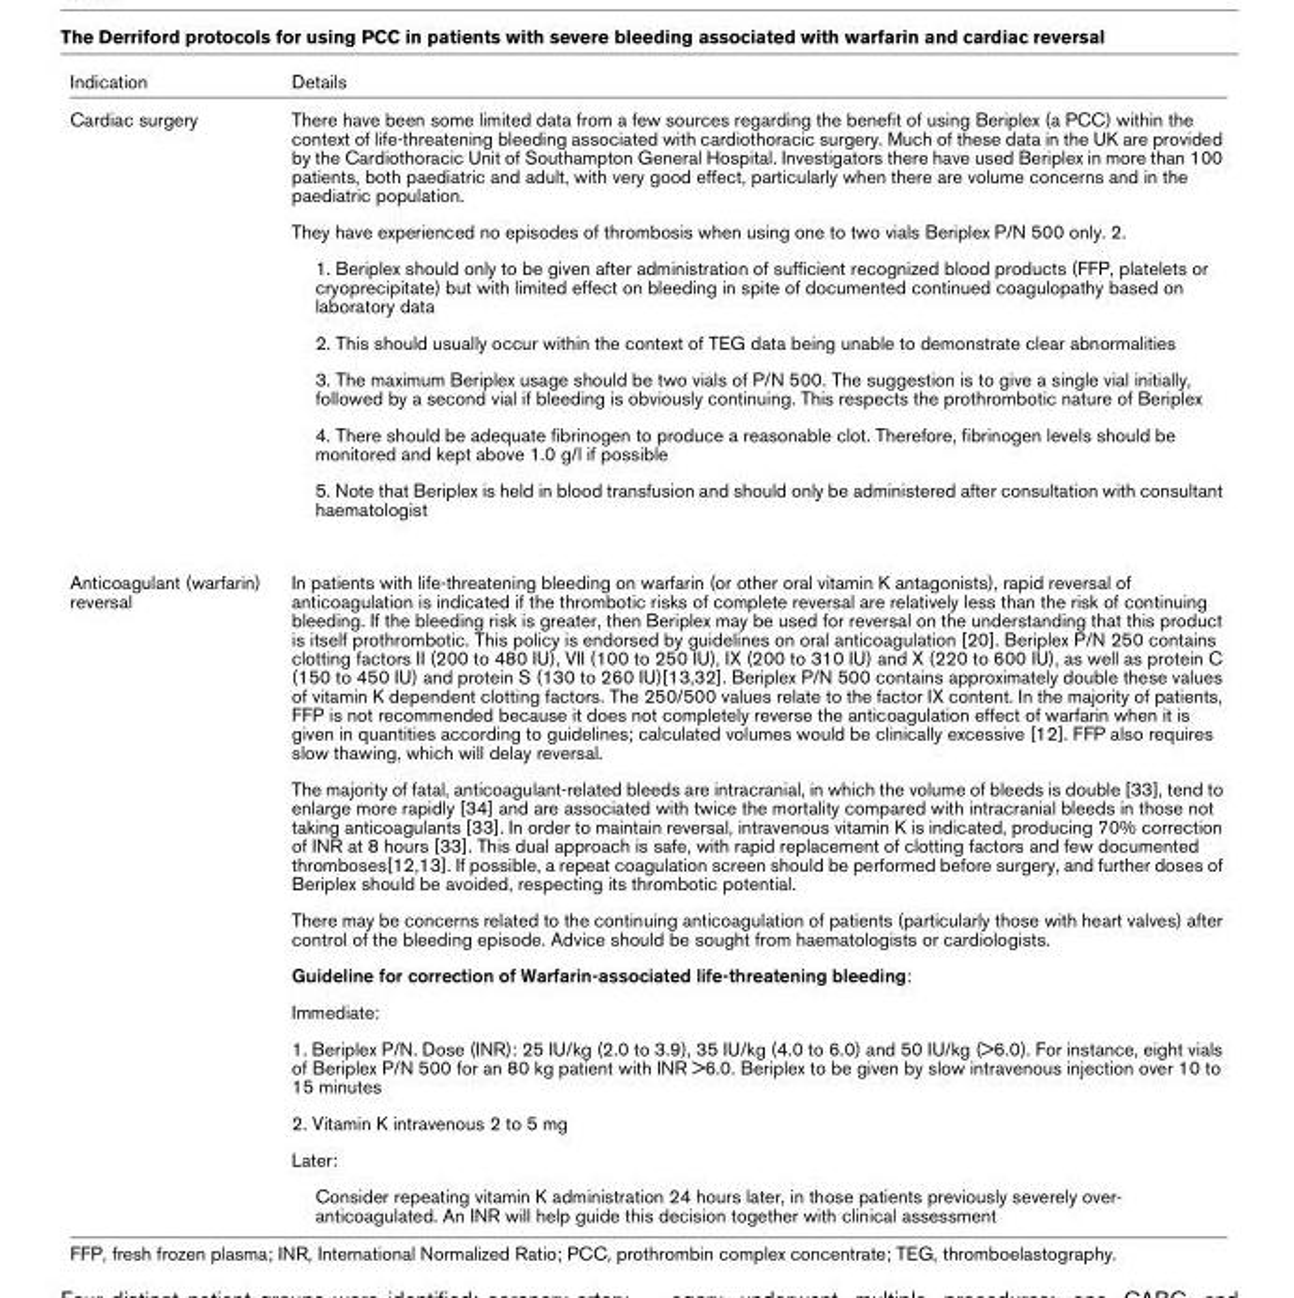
<table><thead><tr><td>Indication</td><td>Details</td></tr></thead><tbody><tr><td rowspan="7">Cardiac surgery</td><td>There have been some limited data from a few sources regarding the benefit of using Beriplex (a PCC) within the context of life-threatening bleeding associated with cardiothoracic surgery. Much of these data in the UK are provided by the Cardiothoracic Unit of Southampton General Hospital. Investigators there have used Beriplex in more than 100 patients, both paediatric and adult, with very good effect, particularly when there are volume concerns and in the paediatric population.</td></tr><tr><td>They have experienced no episodes of thrombosis when using one to two vials Beriplex P/N 500 only. 2.</td></tr><tr><td>1. Beriplex should only to be given after administration of sufficient recognized blood products (FFP, platelets or cryoprecipitate) but with limited effect on bleeding in spite of documented continued coagulopathy based on laboratory data</td></tr><tr><td>2. This should usually occur within the context of TEG data being unable to demonstrate clear abnormalities</td></tr><tr><td>3. The maximum Beriplex usage should be two vials of P/N 500. The suggestion is to give a single vial initially, followed by a second vial if bleeding is obviously continuing. This respects the prothrombotic nature of Beriplex</td></tr><tr><td>4. There should be adequate fibrinogen to produce a reasonable clot. Therefore, fibrinogen levels should be monitored and kept above 1.0 g/l if possible</td></tr><tr><td>5. Note that Beriplex is held in blood transfusion and should only be administered after consultation with consultant haematologist</td></tr><tr><td rowspan="9">Anticoagulant (warfarin) reversal</td><td>In patients with life-threatening bleeding on warfarin (or other oral vitamin K antagonists), rapid reversal of anticoagulation is indicated if the thrombotic risks of complete reversal are relatively less than the risk of continuing bleeding. If the bleeding risk is greater, then Beriplex may be used for reversal on the understanding that this product is itself prothrombotic. This policy is endorsed by guidelines on oral anticoagulation [20]. Beriplex P/N 250 contains clotting factors II (200 to 480 IU), VII (100 to 250 IU), IX (200 to 310 IU) and X (220 to 600 IU), as well as protein C (150 to 450 IU) and protein S (130 to 260 IU)[13,32]. Beriplex P/N 500 contains approximately double these values of vitamin K dependent clotting factors. The 250/500 values relate to the factor IX content. In the majority of patients, FFP is not recommended because it does not completely reverse the anticoagulation effect of warfarin when it is given in quantities according to guidelines; calculated volumes would be clinically excessive [12]. FFP also requires slow thawing, which will delay reversal.</td></tr><tr><td>The majority of fatal, anticoagulant-related bleeds are intracranial, in which the volume of bleeds is double [33], tend to enlarge more rapidly [34] and are associated with twice the mortality compared with intracranial bleeds in those not taking anticoagulants [33]. In order to maintain reversal, intravenous vitamin K is indicated, producing 70% correction of INR at 8 hours [33]. This dual approach is safe, with rapid replacement of clotting factors and few documented thromboses[12,13]. If possible, a repeat coagulation screen should be performed before surgery, and further doses of Beriplex should be avoided, respecting its thrombotic potential.</td></tr><tr><td>There may be concerns related to the continuing anticoagulation of patients (particularly those with heart valves) after control of the bleeding episode. Advice should be sought from haematologists or cardiologists.</td></tr><tr><td>Guideline for correction of Warfarin-associated life-threatening bleeding:</td></tr><tr><td>Immediate:</td></tr><tr><td>1. Beriplex P/N. Dose (INR): 25 IU/kg (2.0 to 3.9), 35 IU/kg (4.0 to 6.0) and 50 IU/kg (&gt;6.0). For instance, eight vials of Beriplex P/N 500 for an 80 kg patient with INR &gt;6.0. Beriplex to be given by slow intravenous injection over 10 to 15 minutes</td></tr><tr><td>2. Vitamin K intravenous 2 to 5 mg</td></tr><tr><td>Later:</td></tr><tr><td>Consider repeating vitamin K administration 24 hours later, in those patients previously severely over- anticoagulated. An INR will help guide this decision together with clinical assessment</td></tr></tbody></table>